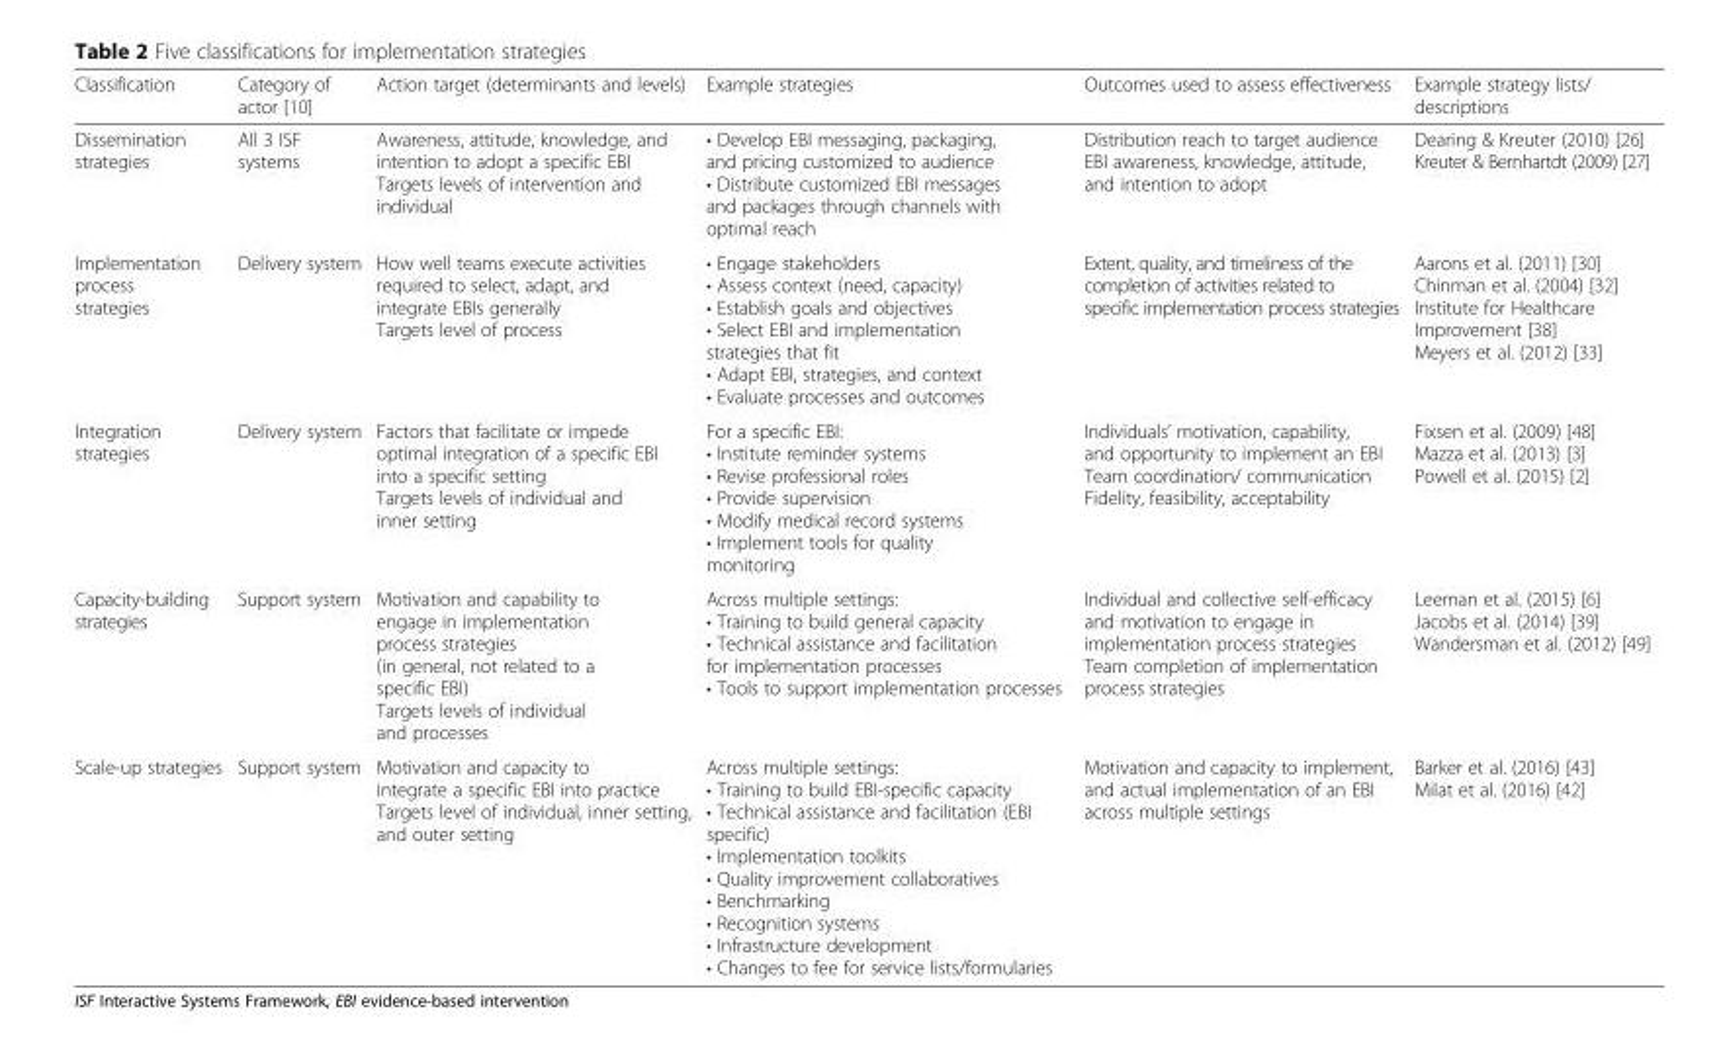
<table><thead><tr><td>Classification</td><td>Category of actor [10]</td><td>Action target (determinants and levels)</td><td>Example strategies</td><td>Outcomes used to assess effectiveness</td><td>Example strategy lists/ descriptions</td></tr></thead><tbody><tr><td>Dissemination strategies</td><td>All 3 ISF systems</td><td>Awareness, attitude, knowledge, and intention to adopt a specific EBI Targets levels of intervention and individual</td><td>• Develop EBI messaging, packaging, and pricing customized to audience • Distribute customized EBI messages and packages through channels with optimal reach</td><td>Distribution reach to target audience EBI awareness, knowledge, attitude, and intention to adopt</td><td>Dearing &amp; Kreuter (2010) [26] Kreuter &amp; Bernhartdt (2009) [27]</td></tr><tr><td>Implementation process strategies</td><td>Delivery system</td><td>How well teams execute activities required to select, adapt, and integrate EBIs generally Targets level of process</td><td>• Engage stakeholders • Assess context (need, capacity) • Establish goals and objectives • Select EBI and implementation strategies that fit • Adapt EBI, strategies, and context • Evaluate processes and outcomes</td><td>Extent, quality, and timeliness of the completion of activities related to specific implementation process strategies</td><td>Aarons et al. (2011) [30] Chinman et al. (2004) [32] Institute for Healthcare Improvement [38] Meyers et al. (2012) [33]</td></tr><tr><td>Integration strategies</td><td>Delivery system</td><td>Factors that facilitate or impede optimal integration of a specific EBI into a specific setting Targets levels of individual and inner setting</td><td>For a specific EBI: • Institute reminder systems • Revise professional roles • Provide supervision • Modify medical record systems • Implement tools for quality monitoring</td><td>Individuals’ motivation, capability, and opportunity to implement an EBI Team coordination/ communication Fidelity, feasibility, acceptability</td><td>Fixsen et al. (2009) [48] Mazza et al. (2013) [3] Powell et al. (2015) [2]</td></tr><tr><td>Capacity-building strategies</td><td>Support system</td><td>Motivation and capability to engage in implementation process strategies (in general, not related to a specific EBI) Targets levels of individual and processes</td><td>Across multiple settings: • Training to build general capacity • Technical assistance and facilitation for implementation processes • Tools to support implementation processes</td><td>Individual and collective self-efficacy and motivation to engage in implementation process strategies Team completion of implementation process strategies</td><td>Leeman et al. (2015) [6] Jacobs et al. (2014) [39] Wandersman et al. (2012) [49]</td></tr><tr><td>Scale-up strategies</td><td>Support system</td><td>Motivation and capacity to integrate a specific EBI into practice Targets level of individual, inner setting, and outer setting</td><td>Across multiple settings: • Training to build EBI-specific capacity • Technical assistance and facilitation (EBI specific) • Implementation toolkits • Quality improvement collaboratives • Benchmarking • Recognition systems • Infrastructure development • Changes to fee for service lists/formularies</td><td>Motivation and capacity to implement, and actual implementation of an EBI across multiple settings</td><td>Barker et al. (2016) [43] Milat et al. (2016) [42]</td></tr></tbody></table>